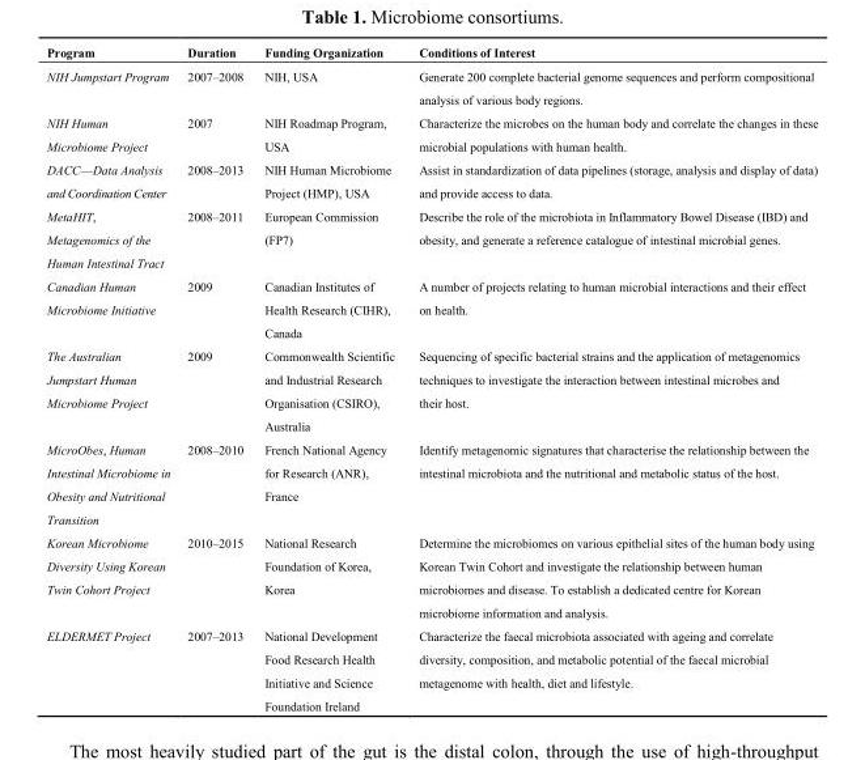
<table><thead><tr><td>Program</td><td>Duration</td><td>Funding Organization</td><td>Conditions of Interest</td></tr></thead><tbody><tr><td>NIH Jumpstart Program</td><td>2007–2008</td><td>NIH, USA</td><td>Generate 200 complete bacterial genome sequences and perform compositional analysis of various body regions.</td></tr><tr><td>NIH Human Microbiome Project</td><td>2007</td><td>NIH Roadmap Program, USA</td><td>Characterize the microbes on the human body and correlate the changes in these microbial populations with human health.</td></tr><tr><td>DACC—Data Analysis and Coordination Center</td><td>2008–2013</td><td>NIH Human Microbiome Project (HMP), USA</td><td>Assist in standardization of data pipelines (storage, analysis and display of data) and provide access to data.</td></tr><tr><td>MetaHIT, Metagenomics of the Human Intestinal Tract</td><td>2008–2011</td><td>European Commission (FP7)</td><td>Describe the role of the microbiota in Inflammatory Bowel Disease (IBD) and obesity, and generate a reference catalogue of intestinal microbial genes.</td></tr><tr><td>Canadian Human Microbiome Initiative</td><td>2009</td><td>Canadian Institutes of Health Research (CIHR), Canada</td><td>A number of projects relating to human microbial interactions and their effect on health.</td></tr><tr><td>The Australian Jumpstart Human Microbiome Project</td><td>2009</td><td>Commonwealth Scientific and Industrial Research Organisation (CSIRO), Australia</td><td>Sequencing of specific bacterial strains and the application of metagenomics techniques to investigate the interaction between intestinal microbes and their host.</td></tr><tr><td>MicroObes, Human Intestinal Microbiome in Obesity and Nutritional Transition</td><td>2008–2010</td><td>French National Agency for Research (ANR), France</td><td>Identify metagenomic signatures that characterise the relationship between the intestinal microbiota and the nutritional and metabolic status of the host.</td></tr><tr><td>Korean Microbiome Diversity Using Korean Twin Cohort Project</td><td>2010–2015</td><td>National Research Foundation of Korea, Korea</td><td>Determine the microbiomes on various epithelial sites of the human body using Korean Twin Cohort and investigate the relationship between human microbiomes and disease. To establish a dedicated centre for Korean microbiome information and analysis.</td></tr><tr><td>ELDERMET Project</td><td>2007–2013</td><td>National Development Food Research Health Initiative and Science Foundation Ireland</td><td>Characterize the faecal microbiota associated with ageing and correlate diversity, composition, and metabolic potential of the faecal microbial metagenome with health, diet and lifestyle.</td></tr></tbody></table>